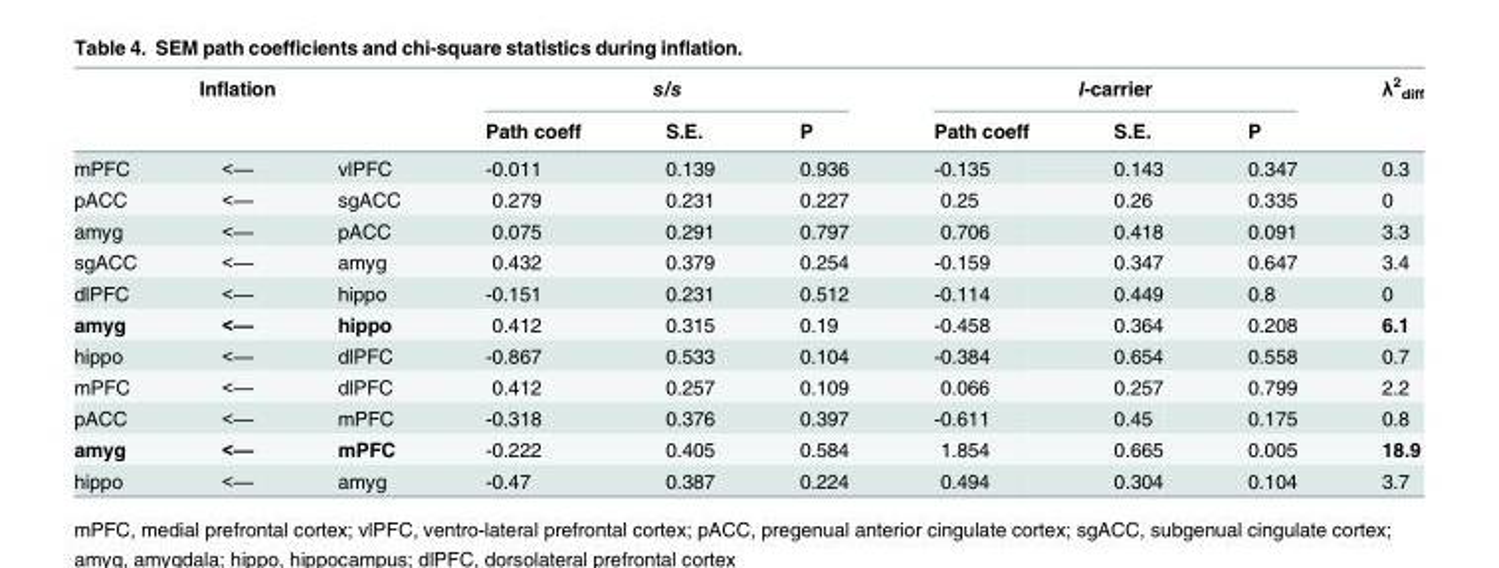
<table><thead><tr><td rowspan="2" colspan="3">Inflation</td><td colspan="3">s/s</td><td colspan="3">l-carrier</td><td rowspan="3">λ<sup>2</sup> <sub>diff</sub> 0.3</td></tr><tr><td rowspan="2">Path coeff -0.011</td><td rowspan="2">S.E. 0.139</td><td rowspan="2">P 0.936</td><td rowspan="2">Path coeff -0.135</td><td rowspan="2">S.E. 0.143</td><td rowspan="2">P 0.347</td></tr><tr><td>mPFC</td><td>&lt;—</td><td>vlPFC</td></tr></thead><tbody><tr><td>pACC</td><td>&lt;—</td><td>sgACC</td><td>0.279</td><td>0.231</td><td>0.227</td><td>0.25</td><td>0.26</td><td>0.335</td><td>0</td></tr><tr><td>amyg</td><td>&lt;—</td><td>pACC</td><td>0.075</td><td>0.291</td><td>0.797</td><td>0.706</td><td>0.418</td><td>0.091</td><td>3.3</td></tr><tr><td>sgACC</td><td>&lt;—</td><td>amyg</td><td>0.432</td><td>0.379</td><td>0.254</td><td>-0.159</td><td>0.347</td><td>0.647</td><td>3.4</td></tr><tr><td>dlPFC</td><td>&lt;—</td><td>hippo</td><td>-0.151</td><td>0.231</td><td>0.512</td><td>-0.114</td><td>0.449</td><td>0.8</td><td>0</td></tr><tr><td>amyg</td><td>&lt;—</td><td>hippo</td><td>0.412</td><td>0.315</td><td>0.19</td><td>-0.458</td><td>0.364</td><td>0.208</td><td>6.1</td></tr><tr><td>hippo</td><td>&lt;—</td><td>dlPFC</td><td>-0.867</td><td>0.533</td><td>0.104</td><td>-0.384</td><td>0.654</td><td>0.558</td><td>0.7</td></tr><tr><td>mPFC</td><td>&lt;—</td><td>dlPFC</td><td>0.412</td><td>0.257</td><td>0.109</td><td>0.066</td><td>0.257</td><td>0.799</td><td>2.2</td></tr><tr><td>pACC</td><td>&lt;—</td><td>mPFC</td><td>-0.318</td><td>0.376</td><td>0.397</td><td>-0.611</td><td>0.45</td><td>0.175</td><td>0.8</td></tr><tr><td>amyg</td><td>&lt;—</td><td>mPFC</td><td>-0.222</td><td>0.405</td><td>0.584</td><td>1.854</td><td>0.665</td><td>0.005</td><td>18.9</td></tr><tr><td>hippo</td><td>&lt;—</td><td>amyg</td><td>-0.47</td><td>0.387</td><td>0.224</td><td>0.494</td><td>0.304</td><td>0.104</td><td>3.7</td></tr></tbody></table>